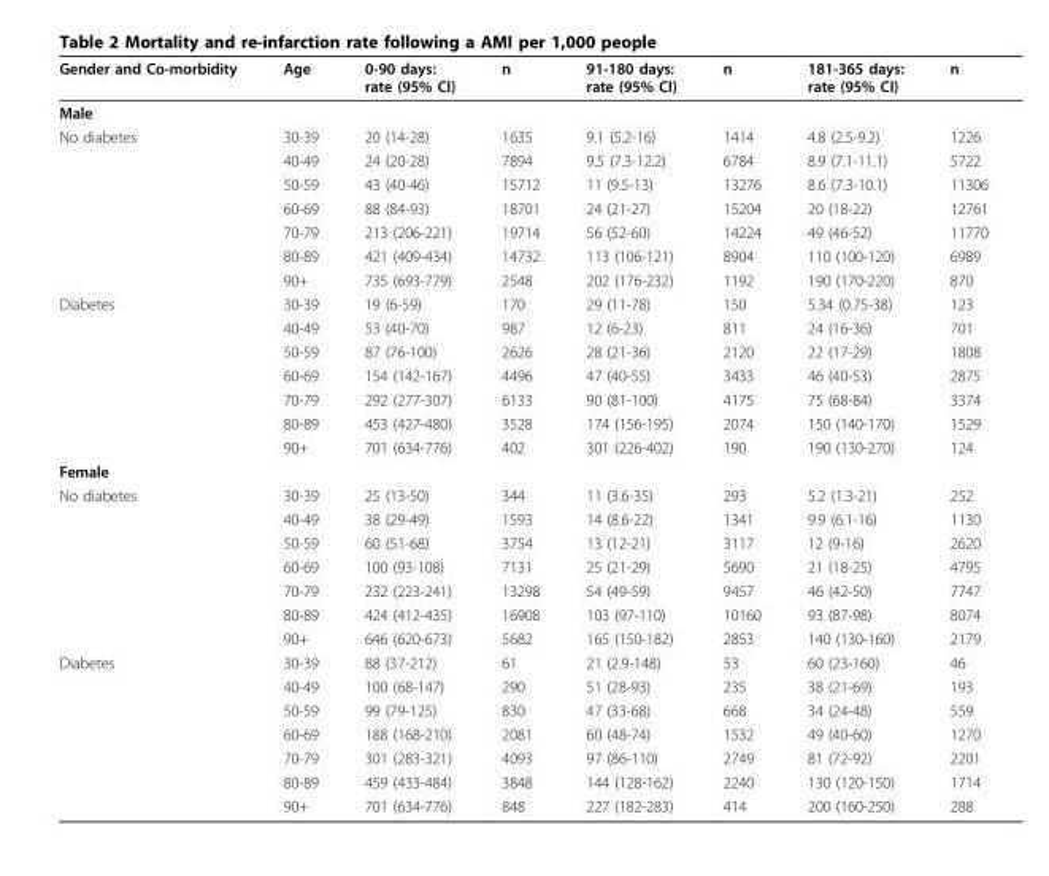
<table><thead><tr><td>Gender and Co-morbidity</td><td>Age</td><td>0-90 days: rate (95% CI)</td><td>n</td><td>91-180 days: rate (95% CI)</td><td>n</td><td>181-365 days: rate (95% CI)</td><td>n</td></tr></thead><tbody><tr><td colspan="8">Male</td></tr><tr><td rowspan="7">No diabetes</td><td>30-39</td><td>20 (14-28)</td><td>1635</td><td>9.1 (5.2-16)</td><td>1414</td><td>4.8 (2.5-9.2)</td><td>1226</td></tr><tr><td>40-49</td><td>24 (20-28)</td><td>7894</td><td>9.5 (7.3-12.2)</td><td>6784</td><td>8.9 (7.1-11.1)</td><td>5722</td></tr><tr><td>50-59</td><td>43 (40-46)</td><td>15712</td><td>11 (9.5-13)</td><td>13276</td><td>8.6 (7.3-10.1)</td><td>11306</td></tr><tr><td>60-69</td><td>88 (84-93)</td><td>18701</td><td>24 (21-27)</td><td>15204</td><td>20 (18-22)</td><td>12761</td></tr><tr><td>70-79</td><td>213 (206-221)</td><td>19714</td><td>56 (52-60)</td><td>14224</td><td>49 (46-52)</td><td>11770</td></tr><tr><td>80-89</td><td>421 (409-434)</td><td>14732</td><td>113 (106-121)</td><td>8904</td><td>110 (100-120)</td><td>6989</td></tr><tr><td>90+</td><td>735 (693-779)</td><td>2548</td><td>202 (176-232)</td><td>1192</td><td>190 (170-220)</td><td>870</td></tr><tr><td rowspan="7">Diabetes</td><td>30-39</td><td>19 (6-59)</td><td>170</td><td>29 (11-78)</td><td>150</td><td>5.34 (0.75-38)</td><td>123</td></tr><tr><td>40-49</td><td>53 (40-70)</td><td>987</td><td>12 (6-23)</td><td>811</td><td>24 (16-36)</td><td>701</td></tr><tr><td>50-59</td><td>87 (76-100)</td><td>2626</td><td>28 (21-36)</td><td>2120</td><td>22 (17-29)</td><td>1808</td></tr><tr><td>60-69</td><td>154 (142-167)</td><td>4496</td><td>47 (40-55)</td><td>3433</td><td>46 (40-53)</td><td>2875</td></tr><tr><td>70-79</td><td>292 (277-307)</td><td>6133</td><td>90 (81-100)</td><td>4175</td><td>75 (68-84)</td><td>3374</td></tr><tr><td>80-89</td><td>453 (427-480)</td><td>3528</td><td>174 (156-195)</td><td>2074</td><td>150 (140-170)</td><td>1529</td></tr><tr><td>90+</td><td>701 (634-776)</td><td>402</td><td>301 (226-402)</td><td>190</td><td>190 (130-270)</td><td>124</td></tr><tr><td colspan="8">Female</td></tr><tr><td rowspan="7">No diabetes</td><td>30-39</td><td>25 (13-50)</td><td>344</td><td>11 (3.6-35)</td><td>293</td><td>5.2 (1.3-21)</td><td>252</td></tr><tr><td>40-49</td><td>38 (29-49)</td><td>1593</td><td>14 (8.6-22)</td><td>1341</td><td>9.9 (6.1-16)</td><td>1130</td></tr><tr><td>50-59</td><td>60 (51-68)</td><td>3754</td><td>13 (12-21)</td><td>3117</td><td>12 (9-16)</td><td>2620</td></tr><tr><td>60-69</td><td>100 (93-108)</td><td>7131</td><td>25 (21-29)</td><td>5690</td><td>21 (18-25)</td><td>4795</td></tr><tr><td>70-79</td><td>232 (223-241)</td><td>13298</td><td>54 (49-59)</td><td>9457</td><td>46 (42-50)</td><td>7747</td></tr><tr><td>80-89</td><td>424 (412-435)</td><td>16908</td><td>103 (97-110)</td><td>10160</td><td>93 (87-98)</td><td>8074</td></tr><tr><td>90+</td><td>646 (620-673)</td><td>5682</td><td>165 (150-182)</td><td>2853</td><td>140 (130-160)</td><td>2179</td></tr><tr><td rowspan="7">Diabetes</td><td>30-39</td><td>88 (37-212)</td><td>61</td><td>21 (2.9-148)</td><td>53</td><td>60 (23-160)</td><td>46</td></tr><tr><td>40-49</td><td>100 (68-147)</td><td>290</td><td>51 (28-93)</td><td>235</td><td>38 (21-69)</td><td>193</td></tr><tr><td>50-59</td><td>99 (79-125)</td><td>830</td><td>47 (33-68)</td><td>668</td><td>34 (24-48)</td><td>559</td></tr><tr><td>60-69</td><td>188 (168-210)</td><td>2081</td><td>60 (48-74)</td><td>1532</td><td>49 (40-60)</td><td>1270</td></tr><tr><td>70-79</td><td>301 (283-321)</td><td>4093</td><td>97 (86-110)</td><td>2749</td><td>81 (72-92)</td><td>2201</td></tr><tr><td>80-89</td><td>459 (433-484)</td><td>3848</td><td>144 (128-162)</td><td>2240</td><td>130 (120-150)</td><td>1714</td></tr><tr><td>90+</td><td>701 (634-776)</td><td>848</td><td>227 (182-283)</td><td>414</td><td>200 (160-250)</td><td>288</td></tr></tbody></table>